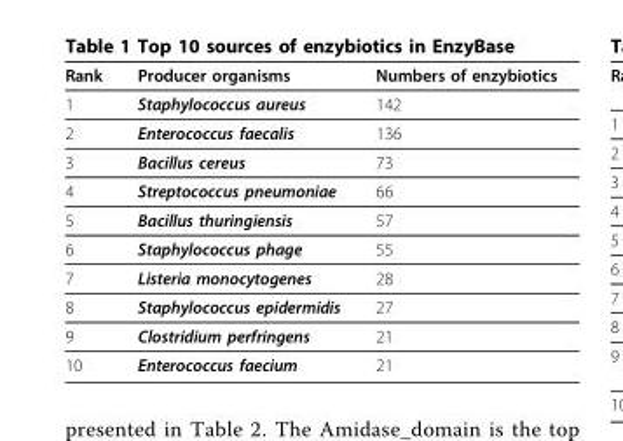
<table><thead><tr><td>Rank</td><td>Producer organisms</td><td>Numbers of enzybiotics</td></tr></thead><tbody><tr><td>1</td><td>Staphylococcus aureus</td><td>142</td></tr><tr><td>2</td><td>Enterococcus faecalis</td><td>136</td></tr><tr><td>3</td><td>Bacillus cereus</td><td>73</td></tr><tr><td>4</td><td>Streptococcus pneumoniae</td><td>66</td></tr><tr><td>5</td><td>Bacillus thuringiensis</td><td>57</td></tr><tr><td>6</td><td>Staphylococcus phage</td><td>55</td></tr><tr><td>7</td><td>Listeria monocytogenes</td><td>28</td></tr><tr><td>8</td><td>Staphylococcus epidermidis</td><td>27</td></tr><tr><td>9</td><td>Clostridium perfringens</td><td>21</td></tr><tr><td>10</td><td>Enterococcus faecium</td><td>21</td></tr></tbody></table>